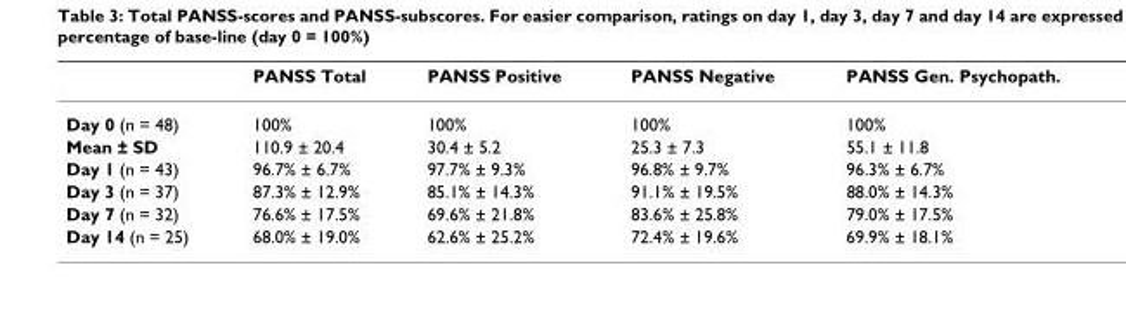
<table><thead><tr><td></td><td>PANSS Total</td><td>PANSS Positive</td><td>PANSS Negative</td><td>PANSS Gen. Psychopath.</td></tr></thead><tbody><tr><td>Day 0 (n = 48)</td><td>100%</td><td>100%</td><td>100%</td><td>100%</td></tr><tr><td>Mean ± SD</td><td>110.9 ± 20.4</td><td>30.4 ± 5.2</td><td>25.3 ± 7.3</td><td>55.1 ± 11.8</td></tr><tr><td>Day 1 (n = 43)</td><td>96.7% ± 6.7%</td><td>97.7% ± 9.3%</td><td>96.8% ± 9.7%</td><td>96.3% ± 6.7%</td></tr><tr><td>Day 3 (n = 37)</td><td>87.3% ± 12.9%</td><td>85.1% ± 14.3%</td><td>91.1% ± 19.5%</td><td>88.0% ± 14.3%</td></tr><tr><td>Day 7 (n = 32)</td><td>76.6% ± 17.5%</td><td>69.6% ± 21.8%</td><td>83.6% ± 25.8%</td><td>79.0% ± 17.5%</td></tr><tr><td>Day 14 (n = 25)</td><td>68.0% ± 19.0%</td><td>62.6% ± 25.2%</td><td>72.4% ± 19.6%</td><td>69.9% ± 18.1%</td></tr></tbody></table>